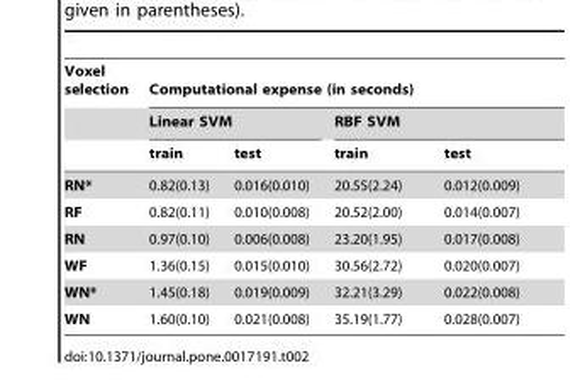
<table><thead><tr><td rowspan="3">Voxel selection</td><td colspan="4">Computational expense (in seconds)</td></tr><tr><td colspan="2">Linear SVM</td><td colspan="2">RBF SVM</td></tr><tr><td>train</td><td>test</td><td>train</td><td>test</td></tr></thead><tbody><tr><td>RN*</td><td>0.82(0.13)</td><td>0.016(0.010)</td><td>20.55(2.24)</td><td>0.012(0.009)</td></tr><tr><td>RF</td><td>0.82(0.11)</td><td>0.010(0.008)</td><td>20.52(2.00)</td><td>0.014(0.007)</td></tr><tr><td>RN</td><td>0.97(0.10)</td><td>0.006(0.008)</td><td>23.20(1.95)</td><td>0.017(0.008)</td></tr><tr><td>WF</td><td>1.36(0.15)</td><td>0.015(0.010)</td><td>30.56(2.72)</td><td>0.020(0.007)</td></tr><tr><td>WN*</td><td>1.45(0.18)</td><td>0.019(0.009)</td><td>32.21(3.29)</td><td>0.022(0.008)</td></tr><tr><td>WN</td><td>1.60(0.10)</td><td>0.021(0.008)</td><td>35.19(1.77)</td><td>0.028(0.007)</td></tr></tbody></table>